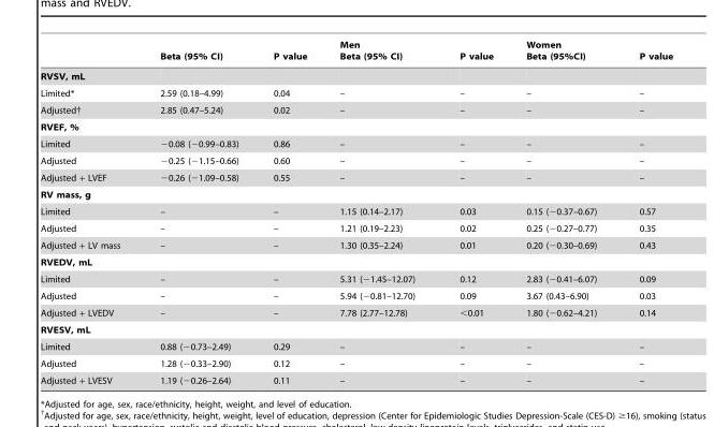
<table><thead><tr><td></td><td>Beta (95% CI)</td><td>P value</td><td>Men Beta (95% CI)</td><td>P value</td><td>Women Beta (95%CI)</td><td>P value</td></tr></thead><tbody><tr><td colspan="7">RVSV, mL</td></tr><tr><td>Limited*</td><td>2.59 (0.18–4.99)</td><td>0.04</td><td>–</td><td>–</td><td>–</td><td>–</td></tr><tr><td>Adjusted†</td><td>2.85 (0.47–5.24)</td><td>0.02</td><td>–</td><td>–</td><td>–</td><td>–</td></tr><tr><td colspan="7">RVEF, %</td></tr><tr><td>Limited</td><td>−0.08 (−0.99–0.83)</td><td>0.86</td><td>–</td><td>–</td><td>–</td><td>–</td></tr><tr><td>Adjusted</td><td>−0.25 (−1.15–0.66)</td><td>0.60</td><td>–</td><td>–</td><td>–</td><td>–</td></tr><tr><td>Adjusted + LVEF</td><td>−0.26 (−1.09–0.58)</td><td>0.55</td><td>–</td><td>–</td><td>–</td><td>–</td></tr><tr><td colspan="7">RV mass, g</td></tr><tr><td>Limited</td><td>–</td><td>–</td><td>1.15 (0.14–2.17)</td><td>0.03</td><td>0.15 (−0.37–0.67)</td><td>0.57</td></tr><tr><td>Adjusted</td><td>–</td><td>–</td><td>1.21 (0.19–2.23)</td><td>0.02</td><td>0.25 (−0.27–0.77)</td><td>0.35</td></tr><tr><td>Adjusted + LV mass</td><td>–</td><td>–</td><td>1.30 (0.35–2.24)</td><td>0.01</td><td>0.20 (−0.30–0.69)</td><td>0.43</td></tr><tr><td colspan="7">RVEDV, mL</td></tr><tr><td>Limited</td><td>–</td><td>–</td><td>5.31 (−1.45–12.07)</td><td>0.12</td><td>2.83 (−0.41–6.07)</td><td>0.09</td></tr><tr><td>Adjusted</td><td>–</td><td>–</td><td>5.94 (−0.81–12.70)</td><td>0.09</td><td>3.67 (0.43–6.90)</td><td>0.03</td></tr><tr><td>Adjusted + LVEDV</td><td>–</td><td>–</td><td>7.78 (2.77–12.78)</td><td>&lt;0.01</td><td>1.80 (−0.62–4.21)</td><td>0.14</td></tr><tr><td colspan="7">RVESV, mL</td></tr><tr><td>Limited</td><td>0.88 (−0.73–2.49)</td><td>0.29</td><td>–</td><td>–</td><td>–</td><td>–</td></tr><tr><td>Adjusted</td><td>1.28 (−0.33–2.90)</td><td>0.12</td><td>–</td><td>–</td><td>–</td><td>–</td></tr><tr><td>Adjusted + LVESV</td><td>1.19 (−0.26–2.64)</td><td>0.11</td><td>–</td><td>–</td><td>–</td><td>–</td></tr></tbody></table>